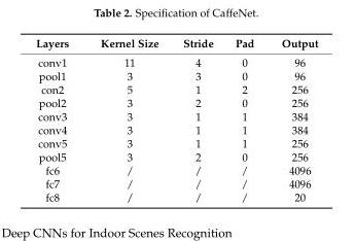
<table><thead><tr><td>Layers</td><td>Kernel Size</td><td>Stride</td><td>Pad</td><td>Output</td></tr></thead><tbody><tr><td>conv1</td><td>11</td><td>4</td><td>0</td><td>96</td></tr><tr><td>pool1</td><td>3</td><td>3</td><td>0</td><td>96</td></tr><tr><td>con2</td><td>5</td><td>1</td><td>2</td><td>256</td></tr><tr><td>pool2</td><td>3</td><td>2</td><td>0</td><td>256</td></tr><tr><td>conv3</td><td>3</td><td>1</td><td>1</td><td>384</td></tr><tr><td>conv4</td><td>3</td><td>1</td><td>1</td><td>384</td></tr><tr><td>conv5</td><td>3</td><td>1</td><td>1</td><td>256</td></tr><tr><td>pool5</td><td>3</td><td>2</td><td>0</td><td>256</td></tr><tr><td>fc6</td><td>/</td><td>/</td><td>/</td><td>4096</td></tr><tr><td>fc7</td><td>/</td><td>/</td><td>/</td><td>4096</td></tr><tr><td>fc8</td><td>/</td><td>/</td><td>/</td><td>20</td></tr></tbody></table>